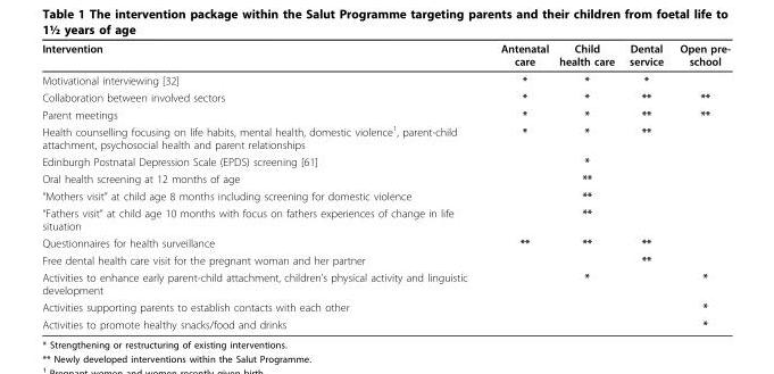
<table><thead><tr><td>Intervention</td><td>Antenatal care</td><td>Child health care</td><td>Dental service</td><td>Open pre- school</td></tr></thead><tbody><tr><td>Motivational interviewing [32]</td><td>*</td><td>*</td><td>*</td><td></td></tr><tr><td>Collaboration between involved sectors</td><td>*</td><td>*</td><td>**</td><td>**</td></tr><tr><td>Parent meetings</td><td>*</td><td>*</td><td>**</td><td>**</td></tr><tr><td>Health counselling focusing on life habits, mental health, domestic violence<sup>1</sup>, parent-child attachment, psychosocial health and parent relationships</td><td>*</td><td>*</td><td>**</td><td></td></tr><tr><td>Edinburgh Postnatal Depression Scale (EPDS) screening [61]</td><td></td><td>*</td><td></td><td></td></tr><tr><td>Oral health screening at 12 months of age</td><td></td><td>**</td><td></td><td></td></tr><tr><td>“Mothers visit” at child age 8 months including screening for domestic violence</td><td></td><td>**</td><td></td><td></td></tr><tr><td>“Fathers visit” at child age 10 months with focus on fathers experiences of change in life situation</td><td></td><td>**</td><td></td><td></td></tr><tr><td>Questionnaires for health surveillance</td><td>**</td><td>**</td><td>**</td><td></td></tr><tr><td>Free dental health care visit for the pregnant woman and her partner</td><td></td><td></td><td>**</td><td></td></tr><tr><td>Activities to enhance early parent-child attachment, children’s physical activity and linguistic development</td><td></td><td>*</td><td></td><td>*</td></tr><tr><td>Activities supporting parents to establish contacts with each other</td><td></td><td></td><td></td><td>*</td></tr><tr><td>Activities to promote healthy snacks/food and drinks</td><td></td><td></td><td></td><td>*</td></tr></tbody></table>